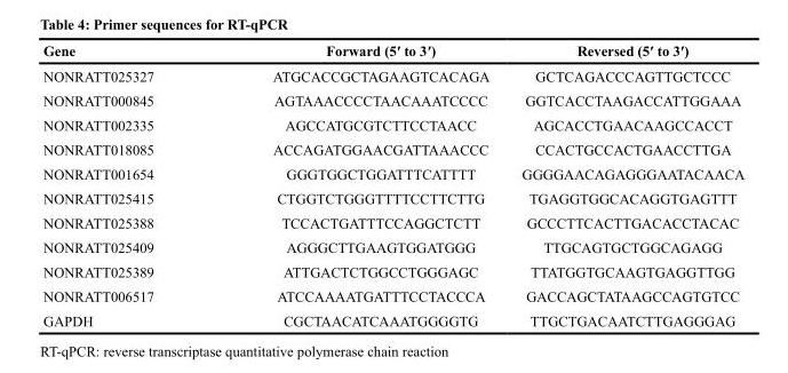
<table><thead><tr><td>Gene</td><td>Forward (5′ to 3′)</td><td>Reversed (5′ to 3′)</td></tr></thead><tbody><tr><td>NONRATT025327</td><td>ATGCACCGCTAGAAGTCACAGA</td><td>GCTCAGACCCAGTTGCTCCC</td></tr><tr><td>NONRATT000845</td><td>AGTAAACCCCTAACAAATCCCC</td><td>GGTCACCTAAGACCATTGGAAA</td></tr><tr><td>NONRATT002335</td><td>AGCCATGCGTCTTCCTAACC</td><td>AGCACCTGAACAAGCCACCT</td></tr><tr><td>NONRATT018085</td><td>ACCAGATGGAACGATTAAACCC</td><td>CCACTGCCACTGAACCTTGA</td></tr><tr><td>NONRATT001654</td><td>GGGTGGCTGGATTTCATTTT</td><td>GGGGAACAGAGGGAATACAACA</td></tr><tr><td>NONRATT025415</td><td>CTGGTCTGGGTTTTCCTTCTTG</td><td>TGAGGTGGCACAGGTGAGTTT</td></tr><tr><td>NONRATT025388</td><td>TCCACTGATTTCCAGGCTCTT</td><td>GCCCTTCACTTGACACCTACAC</td></tr><tr><td>NONRATT025409</td><td>AGGGCTTGAAGTGGATGGG</td><td>TTGCAGTGCTGGCAGAGG</td></tr><tr><td>NONRATT025389</td><td>ATTGACTCTGGCCTGGGAGC</td><td>TTATGGTGCAAGTGAGGTTGG</td></tr><tr><td>NONRATT006517</td><td>ATCCAAAATGATTTCCTACCCA</td><td>GACCAGCTATAAGCCAGTGTCC</td></tr><tr><td>GAPDH</td><td>CGCTAACATCAAATGGGGTG</td><td>TTGCTGACAATCTTGAGGGAG</td></tr></tbody></table>